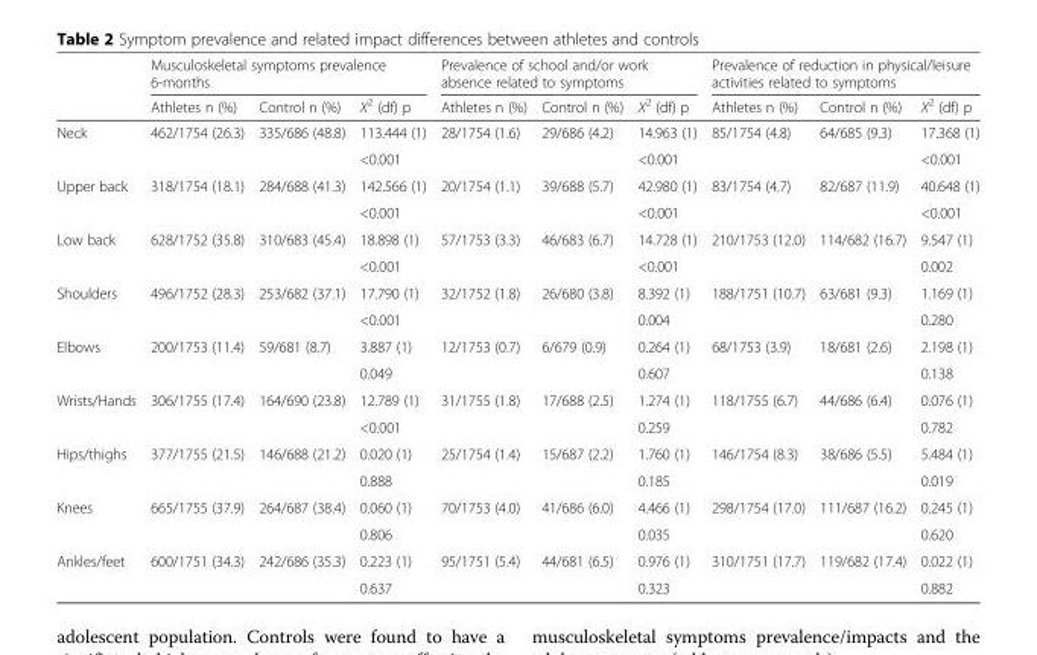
<table><thead><tr><td rowspan="2"></td><td colspan="3">Musculoskeletal symptoms prevalence 6-months</td><td colspan="3">Prevalence of school and/or work absence related to symptoms</td><td colspan="3">Prevalence of reduction in physical/leisure activities related to symptoms</td></tr><tr><td>Athletes n (%)</td><td>Control n (%)</td><td>Χ<sup>2</sup> (df) p</td><td>Athletes n (%)</td><td>Control n (%)</td><td>Χ<sup>2</sup> (df) p</td><td>Athletes n (%)</td><td>Control n (%)</td><td>Χ<sup>2</sup> (df) p</td></tr></thead><tbody><tr><td rowspan="2">Neck</td><td>462/1754 (26.3)</td><td>335/686 (48.8)</td><td>113.444 (1)</td><td>28/1754 (1.6)</td><td>29/686 (4.2)</td><td>14.963 (1)</td><td>85/1754 (4.8)</td><td>64/685 (9.3)</td><td>17.368 (1)</td></tr><tr><td></td><td></td><td>&lt;0.001</td><td></td><td></td><td>&lt;0.001</td><td></td><td></td><td>&lt;0.001</td></tr><tr><td rowspan="2">Upper back</td><td>318/1754 (18.1)</td><td>284/688 (41.3)</td><td>142.566 (1)</td><td>20/1754 (1.1)</td><td>39/688 (5.7)</td><td>42.980 (1)</td><td>83/1754 (4.7)</td><td>82/687 (11.9)</td><td>40.648 (1)</td></tr><tr><td></td><td></td><td>&lt;0.001</td><td></td><td></td><td>&lt;0.001</td><td></td><td></td><td>&lt;0.001</td></tr><tr><td rowspan="2">Low back</td><td>628/1752 (35.8)</td><td>310/683 (45.4)</td><td>18.898 (1)</td><td>57/1753 (3.3)</td><td>46/683 (6.7)</td><td>14.728 (1)</td><td>210/1753 (12.0)</td><td>114/682 (16.7)</td><td>9.547 (1)</td></tr><tr><td></td><td></td><td>&lt;0.001</td><td></td><td></td><td>&lt;0.001</td><td></td><td></td><td>0.002</td></tr><tr><td rowspan="2">Shoulders</td><td>496/1752 (28.3)</td><td>253/682 (37.1)</td><td>17.790 (1)</td><td>32/1752 (1.8)</td><td>26/680 (3.8)</td><td>8.392 (1)</td><td>188/1751 (10.7)</td><td>63/681 (9.3)</td><td>1.169 (1)</td></tr><tr><td></td><td></td><td>&lt;0.001</td><td></td><td></td><td>0.004</td><td></td><td></td><td>0.280</td></tr><tr><td rowspan="2">Elbows</td><td>200/1753 (11.4)</td><td>59/681 (8.7)</td><td>3.887 (1)</td><td>12/1753 (0.7)</td><td>6/679 (0.9)</td><td>0.264 (1)</td><td>68/1753 (3.9)</td><td>18/681 (2.6)</td><td>2.198 (1)</td></tr><tr><td></td><td></td><td>0.049</td><td></td><td></td><td>0.607</td><td></td><td></td><td>0.138</td></tr><tr><td rowspan="2">Wrists/Hands</td><td>306/1755 (17.4)</td><td>164/690 (23.8)</td><td>12.789 (1)</td><td>31/1755 (1.8)</td><td>17/688 (2.5)</td><td>1.274 (1)</td><td>118/1755 (6.7)</td><td>44/686 (6.4)</td><td>0.076 (1)</td></tr><tr><td></td><td></td><td>&lt;0.001</td><td></td><td></td><td>0.259</td><td></td><td></td><td>0.782</td></tr><tr><td rowspan="2">Hips/thighs</td><td>377/1755 (21.5)</td><td>146/688 (21.2)</td><td>0.020 (1)</td><td>25/1754 (1.4)</td><td>15/687 (2.2)</td><td>1.760 (1)</td><td>146/1754 (8.3)</td><td>38/686 (5.5)</td><td>5.484 (1)</td></tr><tr><td></td><td></td><td>0.888</td><td></td><td></td><td>0.185</td><td></td><td></td><td>0.019</td></tr><tr><td rowspan="2">Knees</td><td>665/1755 (37.9)</td><td>264/687 (38.4)</td><td>0.060 (1)</td><td>70/1753 (4.0)</td><td>41/686 (6.0)</td><td>4.466 (1)</td><td>298/1754 (17.0)</td><td>111/687 (16.2)</td><td>0.245 (1)</td></tr><tr><td></td><td></td><td>0.806</td><td></td><td></td><td>0.035</td><td></td><td></td><td>0.620</td></tr><tr><td rowspan="2">Ankles/feet</td><td>600/1751 (34.3)</td><td>242/686 (35.3)</td><td>0.223 (1)</td><td>95/1751 (5.4)</td><td>44/681 (6.5)</td><td>0.976 (1)</td><td>310/1751 (17.7)</td><td>119/682 (17.4)</td><td>0.022 (1)</td></tr><tr><td></td><td></td><td>0.637</td><td></td><td></td><td>0.323</td><td></td><td></td><td>0.882</td></tr></tbody></table>